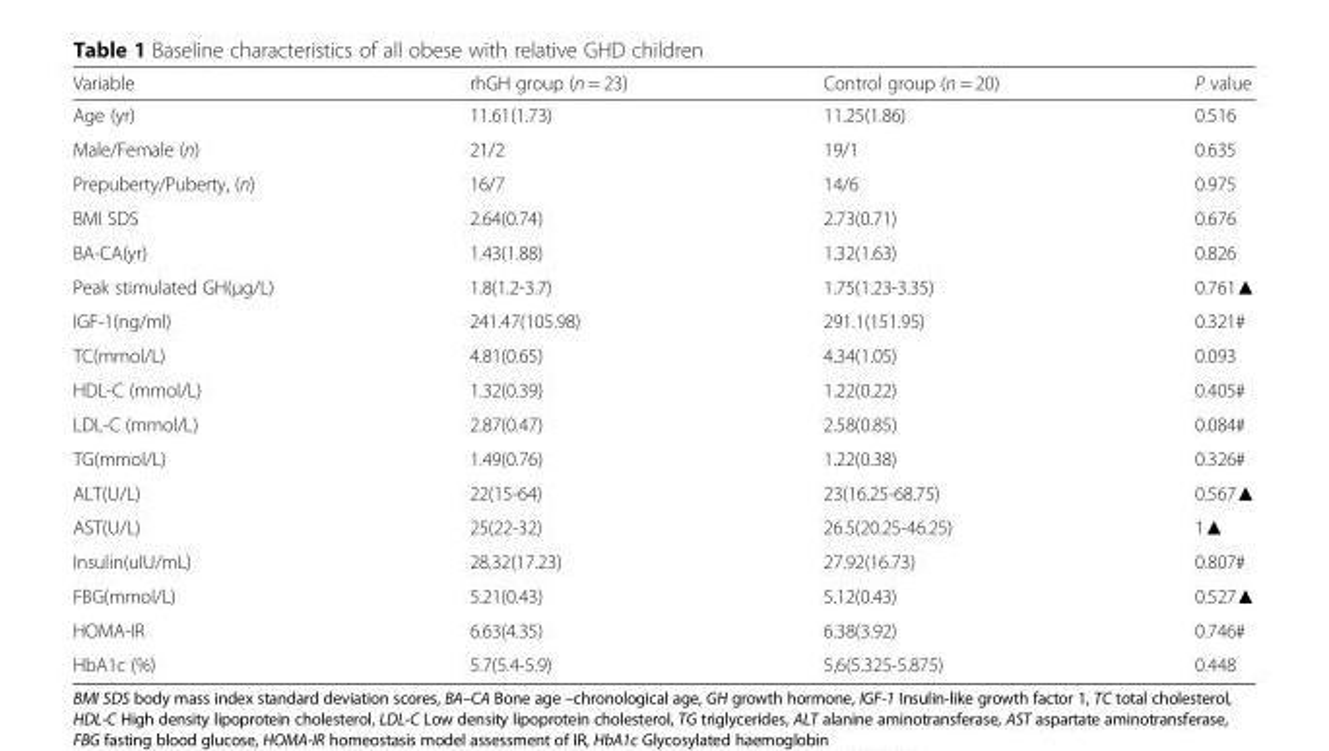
<table><thead><tr><td>Variable</td><td>rhGH group (n = 23)</td><td>Control group (n = 20)</td><td>P value</td></tr></thead><tbody><tr><td>Age (yr)</td><td>11.61(1.73)</td><td>11.25(1.86)</td><td>0.516</td></tr><tr><td>Male/Female (n)</td><td>21/2</td><td>19/1</td><td>0.635</td></tr><tr><td>Prepuberty/Puberty, (n)</td><td>16/7</td><td>14/6</td><td>0.975</td></tr><tr><td>BMI SDS</td><td>2.64(0.74)</td><td>2.73(0.71)</td><td>0.676</td></tr><tr><td>BA-CA(yr)</td><td>1.43(1.88)</td><td>1.32(1.63)</td><td>0.826</td></tr><tr><td>Peak stimulated GH(μg/L)</td><td>1.8(1.2-3.7)</td><td>1.75(1.23-3.35)</td><td>0.761▲</td></tr><tr><td>IGF-1(ng/ml)</td><td>241.47(105.98)</td><td>291.1(151.95)</td><td>0.321#</td></tr><tr><td>TC(mmol/L)</td><td>4.81(0.65)</td><td>4.34(1.05)</td><td>0.093</td></tr><tr><td>HDL-C (mmol/L)</td><td>1.32(0.39)</td><td>1.22(0.22)</td><td>0.405#</td></tr><tr><td>LDL-C (mmol/L)</td><td>2.87(0.47)</td><td>2.58(0.85)</td><td>0.084#</td></tr><tr><td>TG(mmol/L)</td><td>1.49(0.76)</td><td>1.22(0.38)</td><td>0.326#</td></tr><tr><td>ALT(U/L)</td><td>22(15-64)</td><td>23(16.25-68.75)</td><td>0.567▲</td></tr><tr><td>AST(U/L)</td><td>25(22-32)</td><td>26.5(20.25-46.25)</td><td>1▲</td></tr><tr><td>Insulin(uIU/mL)</td><td>28.32(17.23)</td><td>27.92(16.73)</td><td>0.807#</td></tr><tr><td>FBG(mmol/L)</td><td>5.21(0.43)</td><td>5.12(0.43)</td><td>0.527▲</td></tr><tr><td>HOMA-IR</td><td>6.63(4.35)</td><td>6.38(3.92)</td><td>0.746#</td></tr><tr><td>HbA1c (%)</td><td>5.7(5.4-5.9)</td><td>5,6(5.325-5.875)</td><td>0.448</td></tr></tbody></table>